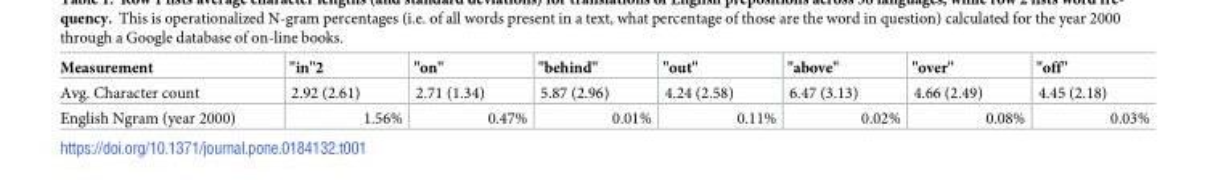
<table><thead><tr><td>Measurement</td><td>&quot;in&quot;2</td><td>&quot;on&quot;</td><td>&quot;behind&quot;</td><td>&quot;out&quot;</td><td>&quot;above&quot;</td><td>&quot;over&quot;</td><td>&quot;off&quot;</td></tr></thead><tbody><tr><td>Avg. Character count</td><td>2.92 (2.61)</td><td>2.71 (1.34)</td><td>5.87 (2.96)</td><td>4.24 (2.58)</td><td>6.47 (3.13)</td><td>4.66 (2.49)</td><td>4.45 (2.18)</td></tr><tr><td>English Ngram (year 2000)</td><td>1.56%</td><td>0.47%</td><td>0.01%</td><td>0.11%</td><td>0.02%</td><td>0.08%</td><td>0.03%</td></tr></tbody></table>